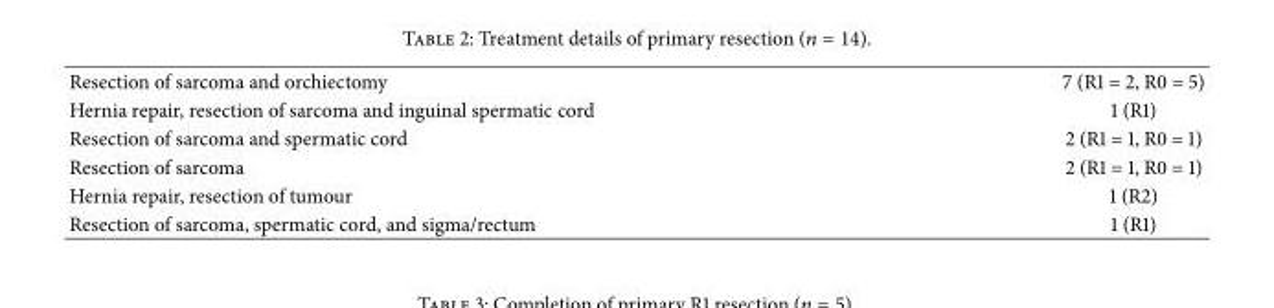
<table><tbody><tr><td>Resection of sarcoma and orchiectomy</td><td>7 (R1 = 2, R0 = 5)</td></tr><tr><td>Hernia repair, resection of sarcoma and inguinal spermatic cord</td><td>1 (R1)</td></tr><tr><td>Resection of sarcoma and spermatic cord</td><td>2 (R1 = 1, R0 = 1)</td></tr><tr><td>Resection of sarcoma</td><td>2 (R1 = 1, R0 = 1)</td></tr><tr><td>Hernia repair, resection of tumour</td><td>1 (R2)</td></tr><tr><td>Resection of sarcoma, spermatic cord, and sigma/rectum</td><td>1 (R1)</td></tr></tbody></table>